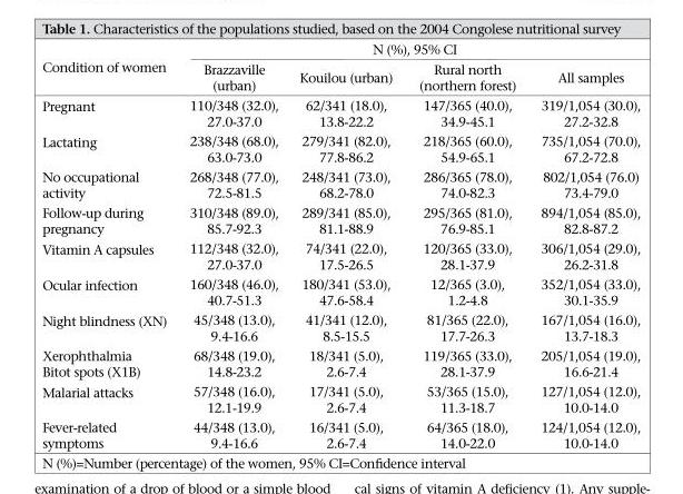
<table><thead><tr><td rowspan="2">Condition of women</td><td colspan="4">N (%), 95% CI</td></tr><tr><td>Brazzaville (urban)</td><td>Kouilou (urban)</td><td>Rural north (northern forest)</td><td>All samples</td></tr></thead><tbody><tr><td>Pregnant</td><td>110/348 (32.0), 27.0-37.0</td><td>62/341 (18.0), 13.8-22.2</td><td>147/365 (40.0), 34.9-45.1</td><td>319/1,054 (30.0), 27.2-32.8</td></tr><tr><td>Lactating</td><td>238/348 (68.0), 63.0-73.0</td><td>279/341 (82.0), 77.8-86.2</td><td>218/365 (60.0), 54.9-65.1</td><td>735/1,054 (70.0), 67.2-72.8</td></tr><tr><td>No occupational activity</td><td>268/348 (77.0), 72.5-81.5</td><td>248/341 (73.0), 68.2-78.0</td><td>286/365 (78.0), 74.0-82.3</td><td>802/1,054 (76.0) 73.4-79.0</td></tr><tr><td>Follow-up during pregnancy</td><td>310/348 (89.0), 85.7-92.3</td><td>289/341 (85.0), 81.1-88.9</td><td>295/365 (81.0), 76.9-85.1</td><td>894/1,054 (85.0), 82.8-87.2</td></tr><tr><td>Vitamin A capsules</td><td>112/348 (32.0), 27.0-37.0</td><td>74/341 (22.0), 17.5-26.5</td><td>120/365 (33.0), 28.1-37.9</td><td>306/1,054 (29.0), 26.2-31.8</td></tr><tr><td>Ocular infection</td><td>160/348 (46.0), 40.7-51.3</td><td>180/341 (53.0), 47.6-58.4</td><td>12/365 (3.0), 1.2-4.8</td><td>352/1,054 (33.0), 30.1-35.9</td></tr><tr><td>Night blindness (XN)</td><td>45/348 (13.0), 9.4-16.6</td><td>41/341 (12.0), 8.5-15.5</td><td>81/365 (22.0), 17.7-26.3</td><td>167/1,054 (16.0), 13.7-18.3</td></tr><tr><td>Xerophthalmia Bitot spots (X1B)</td><td>68/348 (19.0), 14.8-23.2</td><td>18/341 (5.0), 2.6-7.4</td><td>119/365 (33.0), 28.1-37.9</td><td>205/1,054 (19.0), 16.6-21.4</td></tr><tr><td>Malarial attacks</td><td>57/348 (16.0), 12.1-19.9</td><td>17/341 (5.0), 2.6-7.4</td><td>53/365 (15.0), 11.3-18.7</td><td>127/1,054 (12.0), 10.0-14.0</td></tr><tr><td>Fever-related symptoms</td><td>44/348 (13.0), 9.4-16.6</td><td>16/341 (5.0), 2.6-7.4</td><td>64/365 (18.0), 14.0-22.0</td><td>124/1,054 (12.0), 10.0-14.0</td></tr></tbody></table>